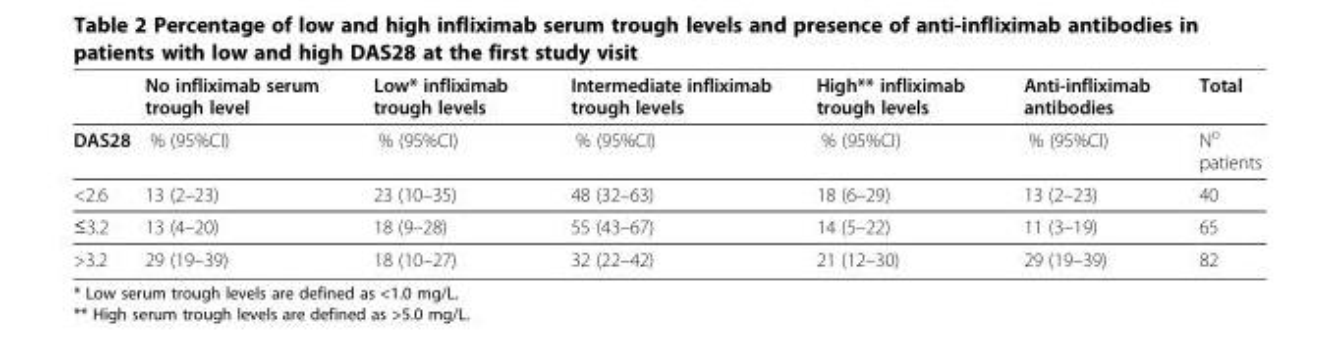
<table><thead><tr><td></td><td>No infliximab serum trough level</td><td>Low* infliximab trough levels</td><td>Intermediate infliximab trough levels</td><td>High** infliximab trough levels</td><td>Anti-infliximab antibodies</td><td>Total</td></tr></thead><tbody><tr><td>DAS28</td><td>% (95%CI)</td><td>% (95%CI)</td><td>% (95%CI)</td><td>% (95%CI)</td><td>% (95%CI)</td><td>N<sup>o</sup> patients</td></tr><tr><td>&lt;2.6</td><td>13 (2–23)</td><td>23 (10–35)</td><td>48 (32–63)</td><td>18 (6–29)</td><td>13 (2–23)</td><td>40</td></tr><tr><td>≤3.2</td><td>13 (4–20)</td><td>18 (9–28)</td><td>55 (43–67)</td><td>14 (5–22)</td><td>11 (3–19)</td><td>65</td></tr><tr><td>&gt;3.2</td><td>29 (19–39)</td><td>18 (10–27)</td><td>32 (22–42)</td><td>21 (12–30)</td><td>29 (19–39)</td><td>82</td></tr></tbody></table>